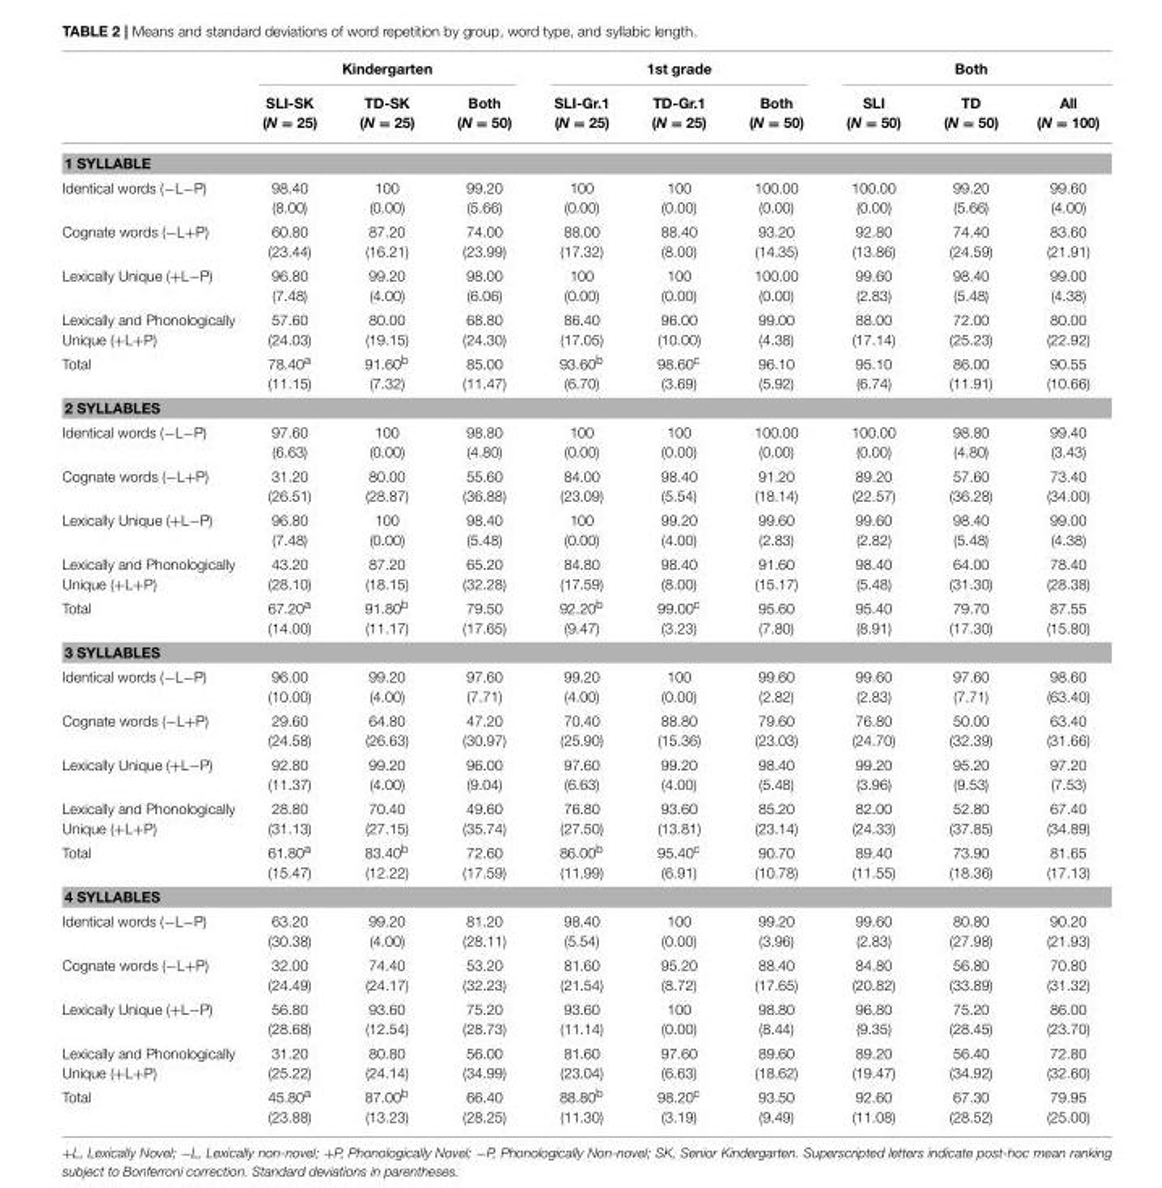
<table><thead><tr><td rowspan="2"></td><td colspan="3">Kindergarten</td><td colspan="3">1st grade</td><td colspan="3">Both</td></tr><tr><td>SLI-SK (N = 25)</td><td>TD-SK (N = 25)</td><td>Both (N = 50)</td><td>SLI-Gr.1 (N = 25)</td><td>TD-Gr.1 (N = 25)</td><td>Both (N = 50)</td><td>SLI (N = 50)</td><td>TD (N = 50)</td><td>All (N = 100)</td></tr></thead><tbody><tr><td colspan="10">1 SYLLABLE</td></tr><tr><td>Identical words (−L−P)</td><td>98.40 (8.00)</td><td>100 (0.00)</td><td>99.20 (5.66)</td><td>100 (0.00)</td><td>100 (0.00)</td><td>100.00 (0.00)</td><td>100.00 (0.00)</td><td>99.20 (5.66)</td><td>99.60 (4.00)</td></tr><tr><td>Cognate words (−L+P)</td><td>60.80 (23.44)</td><td>87.20 (16.21)</td><td>74.00 (23.99)</td><td>88.00 (17.32)</td><td>88.40 (8.00)</td><td>93.20 (14.35)</td><td>92.80 (13.86)</td><td>74.40 (24.59)</td><td>83.60 (21.91)</td></tr><tr><td>Lexically Unique (+L−P)</td><td>96.80 (7.48)</td><td>99.20 (4.00)</td><td>98.00 (6.06)</td><td>100 (0.00)</td><td>100 (0.00)</td><td>100.00 (0.00)</td><td>99.60 (2.83)</td><td>98.40 (5.48)</td><td>99.00 (4.38)</td></tr><tr><td>Lexically and Phonologically Unique (+L+P)</td><td>57.60 (24.03)</td><td>80.00 (19.15)</td><td>68.80 (24.30)</td><td>86.40 (17.05)</td><td>96.00 (10.00)</td><td>99.00 (4.38)</td><td>88.00 (17.14)</td><td>72.00 (25.23)</td><td>80.00 (22.92)</td></tr><tr><td>Total</td><td>78.40<sup>a</sup> (11.15)</td><td>91.60<sup>b</sup> (7.32)</td><td>85.00 (11.47)</td><td>93.60<sup>b</sup> (6.70)</td><td>98.60<sup>c</sup> (3.69)</td><td>96.10 (5.92)</td><td>95.10 (6.74)</td><td>86.00 (11.91)</td><td>90.55 (10.66)</td></tr><tr><td colspan="10">2 SYLLABLES</td></tr><tr><td>Identical words (−L−P)</td><td>97.60 (6.63)</td><td>100 (0.00)</td><td>98.80 (4.80)</td><td>100 (0.00)</td><td>100 (0.00)</td><td>100.00 (0.00)</td><td>100.00 (0.00)</td><td>98.80 (4.80)</td><td>99.40 (3.43)</td></tr><tr><td>Cognate words (−L+P)</td><td>31.20 (26.51)</td><td>80.00 (28.87)</td><td>55.60 (36.88)</td><td>84.00 (23.09)</td><td>98.40 (5.54)</td><td>91.20 (18.14)</td><td>89.20 (22.57)</td><td>57.60 (36.28)</td><td>73.40 (34.00)</td></tr><tr><td>Lexically Unique (+L−P)</td><td>96.80 (7.48)</td><td>100 (0.00)</td><td>98.40 (5.48)</td><td>100 (0.00)</td><td>99.20 (4.00)</td><td>99.60 (2.83)</td><td>99.60 (2.82)</td><td>98.40 (5.48)</td><td>99.00 (4.38)</td></tr><tr><td>Lexically and Phonologically Unique (+L+P)</td><td>43.20 (28.10)</td><td>87.20 (18.15)</td><td>65.20 (32.28)</td><td>84.80 (17.59)</td><td>98.40 (8.00)</td><td>91.60 (15.17)</td><td>98.40 (5.48)</td><td>64.00 (31.30)</td><td>78.40 (28.38)</td></tr><tr><td>Total</td><td>67.20<sup>a</sup> (14.00)</td><td>91.80<sup>b</sup> (11.17)</td><td>79.50 (17.65)</td><td>92.20<sup>b</sup> (9.47)</td><td>99.00<sup>c</sup> (3.23)</td><td>95.60 (7.80)</td><td>95.40 (8.91)</td><td>79.70 (17.30)</td><td>87.55 (15.80)</td></tr><tr><td colspan="10">3 SYLLABLES</td></tr><tr><td>Identical words (−L−P)</td><td>96.00 (10.00)</td><td>99.20 (4.00)</td><td>97.60 (7.71)</td><td>99.20 (4.00)</td><td>100 (0.00)</td><td>99.60 (2.82)</td><td>99.60 (2.83)</td><td>97.60 (7.71)</td><td>98.60 (63.40)</td></tr><tr><td>Cognate words (−L+P)</td><td>29.60 (24.58)</td><td>64.80 (26.63)</td><td>47.20 (30.97)</td><td>70.40 (25.90)</td><td>88.80 (15.36)</td><td>79.60 (23.03)</td><td>76.80 (24.70)</td><td>50.00 (32.39)</td><td>63.40 (31.66)</td></tr><tr><td>Lexically Unique (+L−P)</td><td>92.80 (11.37)</td><td>99.20 (4.00)</td><td>96.00 (9.04)</td><td>97.60 (6.63)</td><td>99.20 (4.00)</td><td>98.40 (5.48)</td><td>99.20 (3.96)</td><td>95.20 (9.53)</td><td>97.20 (7.53)</td></tr><tr><td>Lexically and Phonologically Unique (+L+P)</td><td>28.80 (31.13)</td><td>70.40 (27.15)</td><td>49.60 (35.74)</td><td>76.80 (27.50)</td><td>93.60 (13.81)</td><td>85.20 (23.14)</td><td>82.00 (24.33)</td><td>52.80 (37.85)</td><td>67.40 (34.89)</td></tr><tr><td>Total</td><td>61.80<sup>a</sup> (15.47)</td><td>83.40<sup>b</sup> (12.22)</td><td>72.60 (17.59)</td><td>86.00<sup>b</sup> (11.99)</td><td>95.40<sup>c</sup> (6.91)</td><td>90.70 (10.78)</td><td>89.40 (11.55)</td><td>73.90 (18.36)</td><td>81.65 (17.13)</td></tr><tr><td colspan="10">4 SYLLABLES</td></tr><tr><td>Identical words (−L−P)</td><td>63.20 (30.38)</td><td>99.20 (4.00)</td><td>81.20 (28.11)</td><td>98.40 (5.54)</td><td>100 (0.00)</td><td>99.20 (3.96)</td><td>99.60 (2.83)</td><td>80.80 (27.98)</td><td>90.20 (21.93)</td></tr><tr><td>Cognate words (−L+P)</td><td>32.00 (24.49)</td><td>74.40 (24.17)</td><td>53.20 (32.23)</td><td>81.60 (21.54)</td><td>95.20 (8.72)</td><td>88.40 (17.65)</td><td>84.80 (20.82)</td><td>56.80 (33.89)</td><td>70.80 (31.32)</td></tr><tr><td>Lexically Unique (+L−P)</td><td>56.80 (28.68)</td><td>93.60 (12.54)</td><td>75.20 (28.73)</td><td>93.60 (11.14)</td><td>100 (0.00)</td><td>98.80 (8.44)</td><td>96.80 (9.35)</td><td>75.20 (28.45)</td><td>86.00 (23.70)</td></tr><tr><td>Lexically and Phonologically Unique (+L+P)</td><td>31.20 (25.22)</td><td>80.80 (24.14)</td><td>56.00 (34.99)</td><td>81.60 (23.04)</td><td>97.60 (6.63)</td><td>89.60 (18.62)</td><td>89.20 (19.47)</td><td>56.40 (34.92)</td><td>72.80 (32.60)</td></tr><tr><td>Total</td><td>45.80<sup>a</sup> (23.88)</td><td>87.00<sup>b</sup> (13.23)</td><td>66.40 (28.25)</td><td>88.80<sup>b</sup> (11.30)</td><td>98.20<sup>c</sup> (3.19)</td><td>93.50 (9.49)</td><td>92.60 (11.08)</td><td>67.30 (28.52)</td><td>79.95 (25.00)</td></tr></tbody></table>